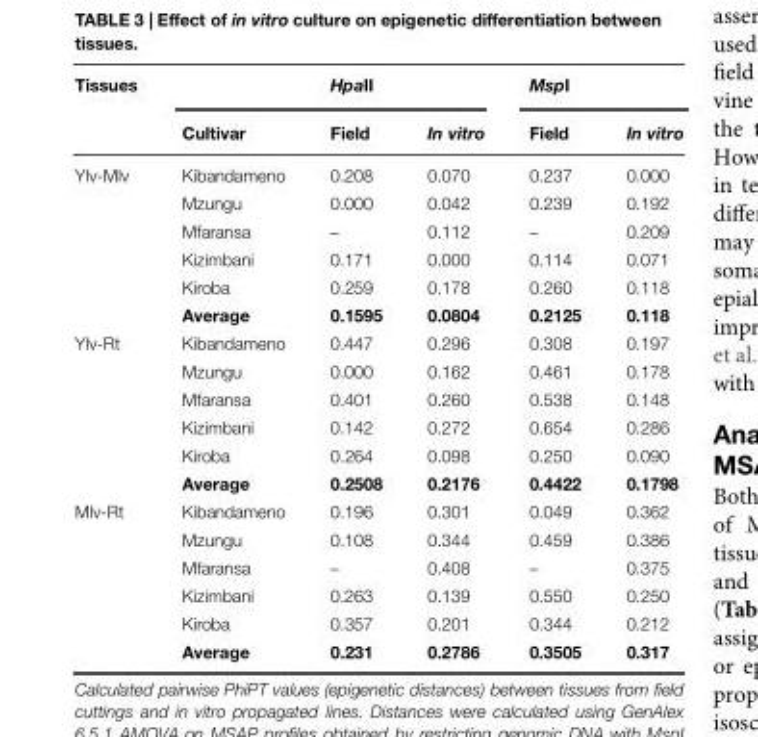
<table><thead><tr><td rowspan="2">Tissues</td><td colspan="3">HpaII</td><td colspan="2">MspI</td></tr><tr><td>Cultivar</td><td>Field</td><td>In vitro</td><td>Field</td><td>In vitro</td></tr></thead><tbody><tr><td rowspan="6">Ylv-Mlv</td><td>Kibandameno</td><td>0.208</td><td>0.070</td><td>0.237</td><td>0.000</td></tr><tr><td>Mzungu</td><td>0.000</td><td>0.042</td><td>0.239</td><td>0.192</td></tr><tr><td>Mfaransa</td><td>–</td><td>0.112</td><td>–</td><td>0.209</td></tr><tr><td>Kizimbani</td><td>0.171</td><td>0.000</td><td>0.114</td><td>0.071</td></tr><tr><td>Kiroba</td><td>0.259</td><td>0.178</td><td>0.260</td><td>0.118</td></tr><tr><td>Average</td><td>0.1595</td><td>0.0804</td><td>0.2125</td><td>0.118</td></tr><tr><td rowspan="6">Ylv-Rt</td><td>Kibandameno</td><td>0.447</td><td>0.296</td><td>0.308</td><td>0.197</td></tr><tr><td>Mzungu</td><td>0.000</td><td>0.162</td><td>0.461</td><td>0.178</td></tr><tr><td>Mfaransa</td><td>0.401</td><td>0.260</td><td>0.538</td><td>0.148</td></tr><tr><td>Kizimbani</td><td>0.142</td><td>0.272</td><td>0.654</td><td>0.286</td></tr><tr><td>Kiroba</td><td>0.264</td><td>0.098</td><td>0.250</td><td>0.090</td></tr><tr><td>Average</td><td>0.2508</td><td>0.2176</td><td>0.4422</td><td>0.1798</td></tr><tr><td rowspan="6">Mlv-Rt</td><td>Kibandameno</td><td>0.196</td><td>0.301</td><td>0.049</td><td>0.362</td></tr><tr><td>Mzungu</td><td>0.108</td><td>0.344</td><td>0.459</td><td>0.386</td></tr><tr><td>Mfaransa</td><td>–</td><td>0.408</td><td>–</td><td>0.375</td></tr><tr><td>Kizimbani</td><td>0.263</td><td>0.139</td><td>0.550</td><td>0.250</td></tr><tr><td>Kiroba</td><td>0.357</td><td>0.201</td><td>0.344</td><td>0.212</td></tr><tr><td>Average</td><td>0.231</td><td>0.2786</td><td>0.3505</td><td>0.317</td></tr></tbody></table>